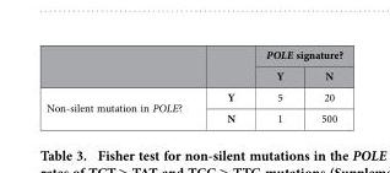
<table><thead><tr><td rowspan="2"></td><td rowspan="2"></td><td colspan="2">POLE signature?</td></tr><tr><td>Y</td><td>N</td></tr></thead><tbody><tr><td rowspan="2">Non-silent mutation in POLE?</td><td>Y</td><td>5</td><td>20</td></tr><tr><td>N</td><td>1</td><td>500</td></tr></tbody></table>